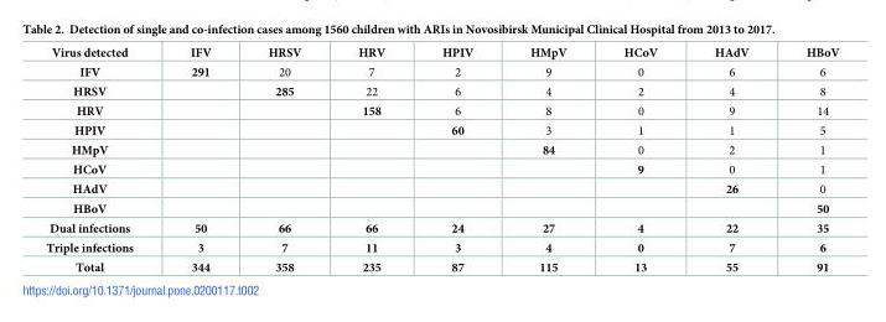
<table><thead><tr><td>Virus detected</td><td>IFV</td><td>HRSV</td><td>HRV</td><td>HPIV</td><td>HMpV</td><td>HCoV</td><td>HAdV</td><td>HBoV</td></tr></thead><tbody><tr><td>IFV</td><td>291</td><td>20</td><td>7</td><td>2</td><td>9</td><td>0</td><td>6</td><td>6</td></tr><tr><td>HRSV</td><td></td><td>285</td><td>22</td><td>6</td><td>4</td><td>2</td><td>4</td><td>8</td></tr><tr><td>HRV</td><td></td><td></td><td>158</td><td>6</td><td>8</td><td>0</td><td>9</td><td>14</td></tr><tr><td>HPIV</td><td></td><td></td><td></td><td>60</td><td>3</td><td>1</td><td>1</td><td>5</td></tr><tr><td>HMpV</td><td></td><td></td><td></td><td></td><td>84</td><td>0</td><td>2</td><td>1</td></tr><tr><td>HCoV</td><td></td><td></td><td></td><td></td><td></td><td>9</td><td>0</td><td>1</td></tr><tr><td>HAdV</td><td></td><td></td><td></td><td></td><td></td><td></td><td>26</td><td>0</td></tr><tr><td>HBoV</td><td></td><td></td><td></td><td></td><td></td><td></td><td></td><td>50</td></tr><tr><td>Dual infections</td><td>50</td><td>66</td><td>66</td><td>24</td><td>27</td><td>4</td><td>22</td><td>35</td></tr><tr><td>Triple infections</td><td>3</td><td>7</td><td>11</td><td>3</td><td>4</td><td>0</td><td>7</td><td>6</td></tr><tr><td>Total</td><td>344</td><td>358</td><td>235</td><td>87</td><td>115</td><td>13</td><td>55</td><td>91</td></tr></tbody></table>